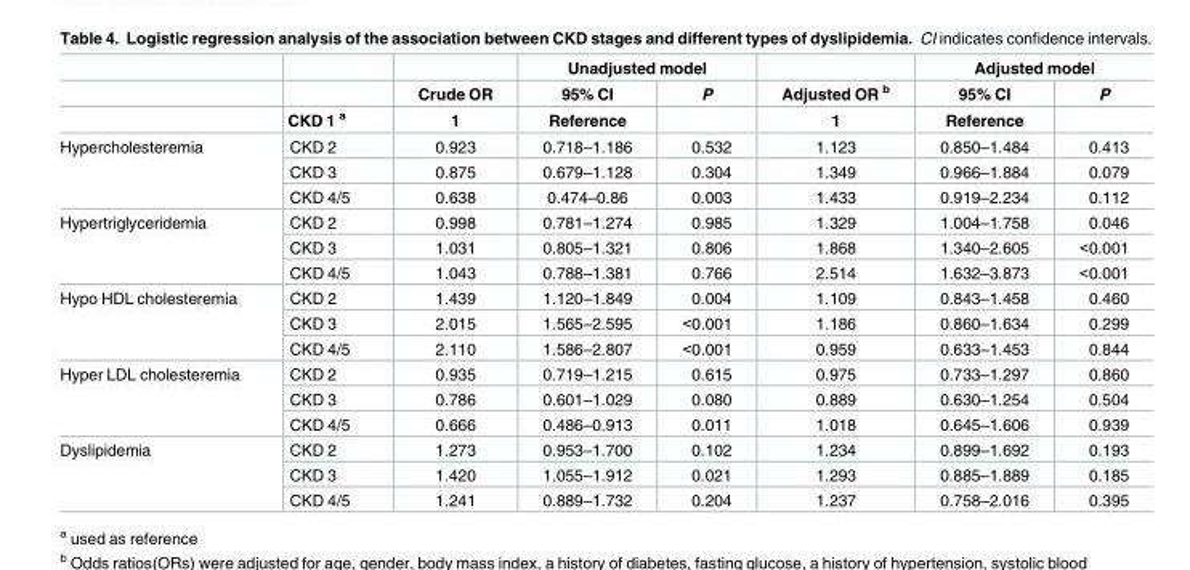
<table><thead><tr><td rowspan="3"></td><td rowspan="3">CKD 1 <sup>a</sup></td><td rowspan="3">Crude OR 1</td><td colspan="2">Unadjusted model</td><td rowspan="3">Adjusted OR <sup>b</sup> 1</td><td colspan="2">Adjusted model</td></tr><tr><td rowspan="2">95% CI Reference</td><td rowspan="2">P</td><td rowspan="2">95% CI Reference</td><td rowspan="2">P</td></tr><tr></tr></thead><tbody><tr><td rowspan="3">Hypercholesteremia</td><td>CKD 2</td><td>0.923</td><td>0.718–1.186</td><td>0.532</td><td>1.123</td><td>0.850–1.484</td><td>0.413</td></tr><tr><td>CKD 3</td><td>0.875</td><td>0.679–1.128</td><td>0.304</td><td>1.349</td><td>0.966–1.884</td><td>0.079</td></tr><tr><td>CKD 4/5</td><td>0.638</td><td>0.474–0.86</td><td>0.003</td><td>1.433</td><td>0.919–2.234</td><td>0.112</td></tr><tr><td rowspan="3">Hypertriglyceridemia</td><td>CKD 2</td><td>0.998</td><td>0.781–1.274</td><td>0.985</td><td>1.329</td><td>1.004–1.758</td><td>0.046</td></tr><tr><td>CKD 3</td><td>1.031</td><td>0.805–1.321</td><td>0.806</td><td>1.868</td><td>1.340–2.605</td><td>&lt;0.001</td></tr><tr><td>CKD 4/5</td><td>1.043</td><td>0.788–1.381</td><td>0.766</td><td>2.514</td><td>1.632–3.873</td><td>&lt;0.001</td></tr><tr><td rowspan="3">Hypo HDL cholesteremia</td><td>CKD 2</td><td>1.439</td><td>1.120–1.849</td><td>0.004</td><td>1.109</td><td>0.843–1.458</td><td>0.460</td></tr><tr><td>CKD 3</td><td>2.015</td><td>1.565–2.595</td><td>&lt;0.001</td><td>1.186</td><td>0.860–1.634</td><td>0.299</td></tr><tr><td>CKD 4/5</td><td>2.110</td><td>1.586–2.807</td><td>&lt;0.001</td><td>0.959</td><td>0.633–1.453</td><td>0.844</td></tr><tr><td rowspan="3">Hyper LDL cholesteremia</td><td>CKD 2</td><td>0.935</td><td>0.719–1.215</td><td>0.615</td><td>0.975</td><td>0.733–1.297</td><td>0.860</td></tr><tr><td>CKD 3</td><td>0.786</td><td>0.601–1.029</td><td>0.080</td><td>0.889</td><td>0.630–1.254</td><td>0.504</td></tr><tr><td>CKD 4/5</td><td>0.666</td><td>0.486–0.913</td><td>0.011</td><td>1.018</td><td>0.645–1.606</td><td>0.939</td></tr><tr><td rowspan="3">Dyslipidemia</td><td>CKD 2</td><td>1.273</td><td>0.953–1.700</td><td>0.102</td><td>1.234</td><td>0.899–1.692</td><td>0.193</td></tr><tr><td>CKD 3</td><td>1.420</td><td>1.055–1.912</td><td>0.021</td><td>1.293</td><td>0.885–1.889</td><td>0.185</td></tr><tr><td>CKD 4/5</td><td>1.241</td><td>0.889–1.732</td><td>0.204</td><td>1.237</td><td>0.758–2.016</td><td>0.395</td></tr></tbody></table>